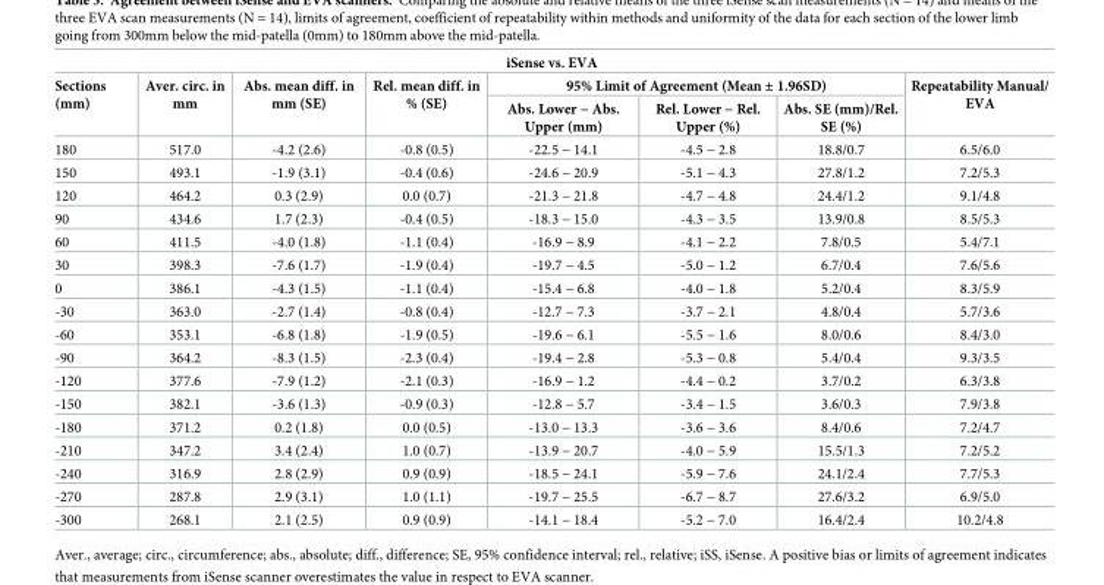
<table><thead><tr><td colspan="8">iSense vs. EVA</td></tr><tr><td rowspan="2">Sections (mm)</td><td rowspan="2">Aver. circ. in mm</td><td rowspan="2">Abs. mean diff. in mm (SE)</td><td rowspan="2">Rel. mean diff. in % (SE)</td><td colspan="3">95% Limit of Agreement (Mean ± 1.96SD)</td><td rowspan="2">Repeatability Manual/ EVA</td></tr><tr><td>Abs. Lower − Abs. Upper (mm)</td><td>Rel. Lower − Rel. Upper (%)</td><td>Abs. SE (mm)/Rel. SE (%)</td></tr></thead><tbody><tr><td>180</td><td>517.0</td><td>-4.2 (2.6)</td><td>-0.8 (0.5)</td><td>-22.5 − 14.1</td><td>-4.5 − 2.8</td><td>18.8/0.7</td><td>6.5/6.0</td></tr><tr><td>150</td><td>493.1</td><td>-1.9 (3.1)</td><td>-0.4 (0.6)</td><td>-24.6 − 20.9</td><td>-5.1 − 4.3</td><td>27.8/1.2</td><td>7.2/5.3</td></tr><tr><td>120</td><td>464.2</td><td>0.3 (2.9)</td><td>0.0 (0.7)</td><td>-21.3 − 21.8</td><td>-4.7 − 4.8</td><td>24.4/1.2</td><td>9.1/4.8</td></tr><tr><td>90</td><td>434.6</td><td>1.7 (2.3)</td><td>-0.4 (0.5)</td><td>-18.3 − 15.0</td><td>-4.3 − 3.5</td><td>13.9/0.8</td><td>8.5/5.3</td></tr><tr><td>60</td><td>411.5</td><td>-4.0 (1.8)</td><td>-1.1 (0.4)</td><td>-16.9 − 8.9</td><td>-4.1 − 2.2</td><td>7.8/0.5</td><td>5.4/7.1</td></tr><tr><td>30</td><td>398.3</td><td>-7.6 (1.7)</td><td>-1.9 (0.4)</td><td>-19.7 − 4.5</td><td>-5.0 − 1.2</td><td>6.7/0.4</td><td>7.6/5.6</td></tr><tr><td>0</td><td>386.1</td><td>-4.3 (1.5)</td><td>-1.1 (0.4)</td><td>-15.4 − 6.8</td><td>-4.0 − 1.8</td><td>5.2/0.4</td><td>8.3/5.9</td></tr><tr><td>-30</td><td>363.0</td><td>-2.7 (1.4)</td><td>-0.8 (0.4)</td><td>-12.7 − 7.3</td><td>-3.7 − 2.1</td><td>4.8/0.4</td><td>5.7/3.6</td></tr><tr><td>-60</td><td>353.1</td><td>-6.8 (1.8)</td><td>-1.9 (0.5)</td><td>-19.6 − 6.1</td><td>-5.5 − 1.6</td><td>8.0/0.6</td><td>8.4/3.0</td></tr><tr><td>-90</td><td>364.2</td><td>-8.3 (1.5)</td><td>-2.3 (0.4)</td><td>-19.4 − 2.8</td><td>-5.3 − 0.8</td><td>5.4/0.4</td><td>9.3/3.5</td></tr><tr><td>-120</td><td>377.6</td><td>-7.9 (1.2)</td><td>-2.1 (0.3)</td><td>-16.9 − 1.2</td><td>-4.4 − 0.2</td><td>3.7/0.2</td><td>6.3/3.8</td></tr><tr><td>-150</td><td>382.1</td><td>-3.6 (1.3)</td><td>-0.9 (0.3)</td><td>-12.8 − 5.7</td><td>-3.4 − 1.5</td><td>3.6/0.3</td><td>7.9/3.8</td></tr><tr><td>-180</td><td>371.2</td><td>0.2 (1.8)</td><td>0.0 (0.5)</td><td>-13.0 − 13.3</td><td>-3.6 − 3.6</td><td>8.4/0.6</td><td>7.2/4.7</td></tr><tr><td>-210</td><td>347.2</td><td>3.4 (2.4)</td><td>1.0 (0.7)</td><td>-13.9 − 20.7</td><td>-4.0 − 5.9</td><td>15.5/1.3</td><td>7.2/5.2</td></tr><tr><td>-240</td><td>316.9</td><td>2.8 (2.9)</td><td>0.9 (0.9)</td><td>-18.5 − 24.1</td><td>-5.9 − 7.6</td><td>24.1/2.4</td><td>7.7/5.3</td></tr><tr><td>-270</td><td>287.8</td><td>2.9 (3.1)</td><td>1.0 (1.1)</td><td>-19.7 − 25.5</td><td>-6.7 − 8.7</td><td>27.6/3.2</td><td>6.9/5.0</td></tr><tr><td>-300</td><td>268.1</td><td>2.1 (2.5)</td><td>0.9 (0.9)</td><td>-14.1 − 18.4</td><td>-5.2 − 7.0</td><td>16.4/2.4</td><td>10.2/4.8</td></tr></tbody></table>